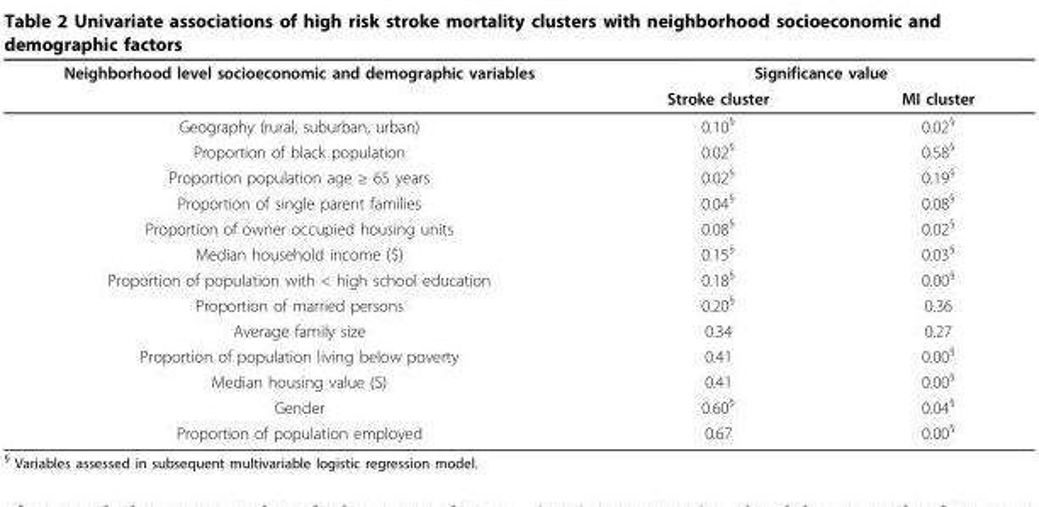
<table><thead><tr><td rowspan="2">Neighborhood level socioeconomic and demographic variables</td><td colspan="2">Significance value</td></tr><tr><td>Stroke cluster</td><td>MI cluster</td></tr></thead><tbody><tr><td>Geography (rural, suburban, urban)</td><td>0.10<sup>§</sup></td><td>0.02<sup>§</sup></td></tr><tr><td>Proportion of black population</td><td>0.02<sup>§</sup></td><td>0.58<sup>§</sup></td></tr><tr><td>Proportion population age ≥ 65 years</td><td>0.02<sup>§</sup></td><td>0.19<sup>§</sup></td></tr><tr><td>Proportion of single parent families</td><td>0.04<sup>§</sup></td><td>0.08<sup>§</sup></td></tr><tr><td>Proportion of owner occupied housing units</td><td>0.08<sup>§</sup></td><td>0.02<sup>§</sup></td></tr><tr><td>Median household income ($)</td><td>0.15<sup>§</sup></td><td>0.03<sup>§</sup></td></tr><tr><td>Proportion of population with &lt; high school education</td><td>0.18<sup>§</sup></td><td>0.00<sup>§</sup></td></tr><tr><td>Proportion of married persons</td><td>0.20<sup>§</sup></td><td>0.36</td></tr><tr><td>Average family size</td><td>0.34</td><td>0.27</td></tr><tr><td>Proportion of population living below poverty</td><td>0.41</td><td>0.00<sup>§</sup></td></tr><tr><td>Median housing value (S)</td><td>0.41</td><td>0.00<sup>§</sup></td></tr><tr><td>Gender</td><td>0.60<sup>§</sup></td><td>0.04<sup>§</sup></td></tr><tr><td>Proportion of population employed</td><td>0.67</td><td>0.00<sup>§</sup></td></tr></tbody></table>